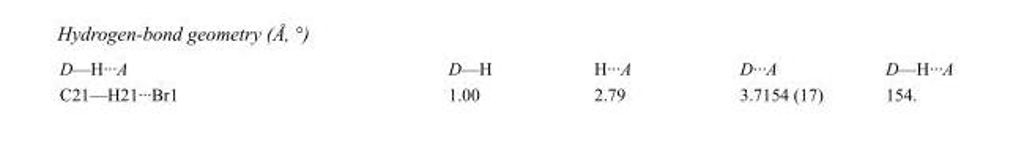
<table><tbody><tr><td>D—H···A</td><td>D—H</td><td>H···A</td><td>D···A</td><td>D—H···A</td></tr><tr><td>C21—H21···Br1</td><td>1.00</td><td>2.79</td><td>3.7154 (17)</td><td>154.</td></tr></tbody></table>